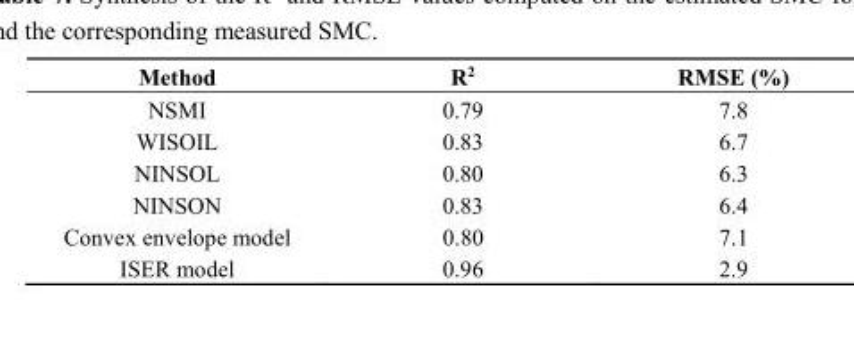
<table><thead><tr><td>Method</td><td>R<sup>2</sup></td><td>RMSE (%)</td></tr></thead><tbody><tr><td>NSMI</td><td>0.79</td><td>7.8</td></tr><tr><td>WISOIL</td><td>0.83</td><td>6.7</td></tr><tr><td>NINSOL</td><td>0.80</td><td>6.3</td></tr><tr><td>NINSON</td><td>0.83</td><td>6.4</td></tr><tr><td>Convex envelope model</td><td>0.80</td><td>7.1</td></tr><tr><td>ISER model</td><td>0.96</td><td>2.9</td></tr></tbody></table>